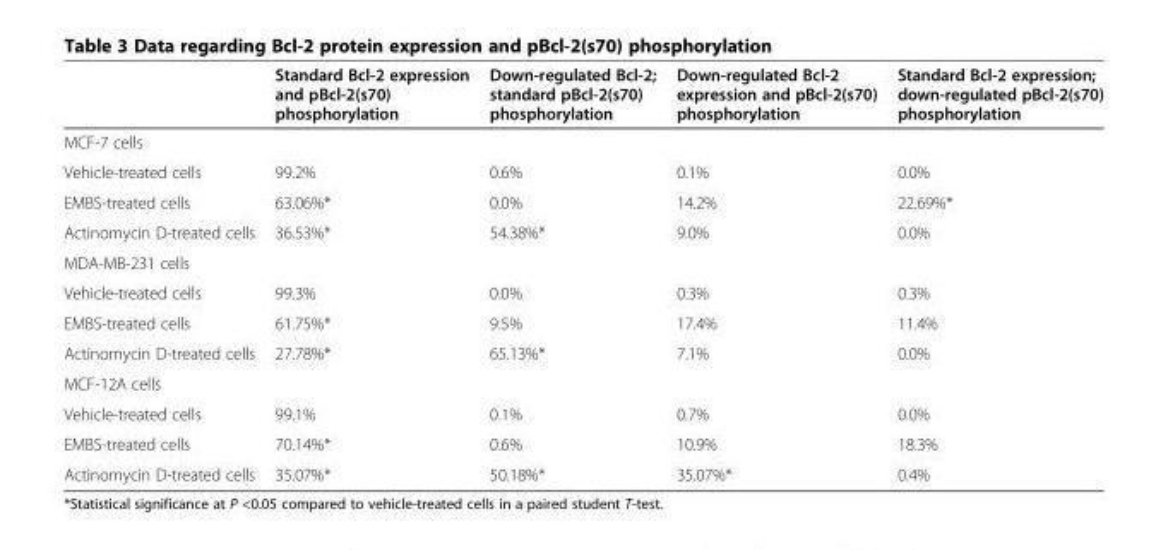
<table><thead><tr><td></td><td>Standard Bcl-2 expression and pBcl-2(s70) phosphorylation</td><td>Down-regulated Bcl-2; standard pBcl-2(s70) phosphorylation</td><td>Down-regulated Bcl-2 expression and pBcl-2(s70) phosphorylation</td><td>Standard Bcl-2 expression; down-regulated pBcl-2(s70) phosphorylation</td></tr></thead><tbody><tr><td colspan="5">MCF-7 cells</td></tr><tr><td>Vehicle-treated cells</td><td>99.2%</td><td>0.6%</td><td>0.1%</td><td>0.0%</td></tr><tr><td>EMBS-treated cells</td><td>63.06%*</td><td>0.0%</td><td>14.2%</td><td>22.69%*</td></tr><tr><td>Actinomycin D-treated cells</td><td>36.53%*</td><td>54.38%*</td><td>9.0%</td><td>0.0%</td></tr><tr><td colspan="5">MDA-MB-231 cells</td></tr><tr><td>Vehicle-treated cells</td><td>99.3%</td><td>0.0%</td><td>0.3%</td><td>0.3%</td></tr><tr><td>EMBS-treated cells</td><td>61.75%*</td><td>9.5%</td><td>17.4%</td><td>11.4%</td></tr><tr><td>Actinomycin D-treated cells</td><td>27.78%*</td><td>65.13%*</td><td>7.1%</td><td>0.0%</td></tr><tr><td colspan="5">MCF-12A cells</td></tr><tr><td>Vehicle-treated cells</td><td>99.1%</td><td>0.1%</td><td>0.7%</td><td>0.0%</td></tr><tr><td>EMBS-treated cells</td><td>70.14%*</td><td>0.6%</td><td>10.9%</td><td>18.3%</td></tr><tr><td>Actinomycin D-treated cells</td><td>35.07%*</td><td>50.18%*</td><td>35.07%*</td><td>0.4%</td></tr></tbody></table>